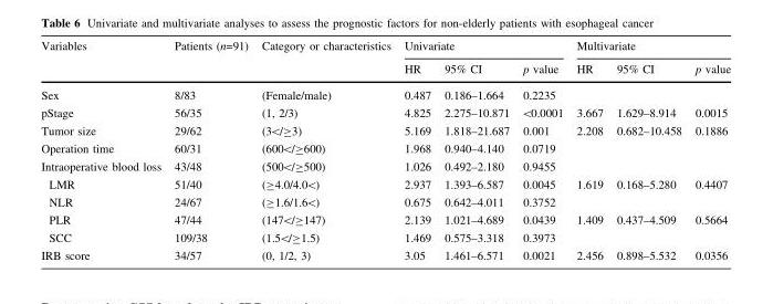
<table><thead><tr><td rowspan="2">Variables</td><td rowspan="2">Patients (n=91)</td><td rowspan="2">Category or characteristics</td><td colspan="3">Univariate</td><td colspan="3">Multivariate</td></tr><tr><td>HR</td><td>95% CI</td><td>p value</td><td>HR</td><td>95% CI</td><td>p value</td></tr></thead><tbody><tr><td>Sex</td><td>8/83</td><td>(Female/male)</td><td>0.487</td><td>0.186–1.664</td><td>0.2235</td><td></td><td></td><td></td></tr><tr><td>pStage</td><td>56/35</td><td>(1, 2/3)</td><td>4.825</td><td>2.275–10.871</td><td>&lt;0.0001</td><td>3.667</td><td>1.629–8.914</td><td>0.0015</td></tr><tr><td>Tumor size</td><td>29/62</td><td>(3&lt;/≥3)</td><td>5.169</td><td>1.818–21.687</td><td>0.001</td><td>2.208</td><td>0.682–10.458</td><td>0.1886</td></tr><tr><td>Operation time</td><td>60/31</td><td>(600&lt;/≥600)</td><td>1.968</td><td>0.940–4.140</td><td>0.0719</td><td></td><td></td><td></td></tr><tr><td>Intraoperative blood loss</td><td>43/48</td><td>(500&lt;/≥500)</td><td>1.026</td><td>0.492–2.180</td><td>0.9455</td><td></td><td></td><td></td></tr><tr><td>LMR</td><td>51/40</td><td>(≥4.0/4.0&lt;)</td><td>2.937</td><td>1.393–6.587</td><td>0.0045</td><td>1.619</td><td>0.168–5.280</td><td>0.4407</td></tr><tr><td>NLR</td><td>24/67</td><td>(≥1.6/1.6&lt;)</td><td>0.675</td><td>0.642–4.011</td><td>0.3752</td><td></td><td></td><td></td></tr><tr><td>PLR</td><td>47/44</td><td>(147&lt;/≥147)</td><td>2.139</td><td>1.021–4.689</td><td>0.0439</td><td>1.409</td><td>0.437–4.509</td><td>0.5664</td></tr><tr><td>SCC</td><td>109/38</td><td>(1.5&lt;/≥1.5)</td><td>1.469</td><td>0.575–3.318</td><td>0.3973</td><td></td><td></td><td></td></tr><tr><td>IRB score</td><td>34/57</td><td>(0, 1/2, 3)</td><td>3.05</td><td>1.461–6.571</td><td>0.0021</td><td>2.456</td><td>0.898–5.532</td><td>0.0356</td></tr></tbody></table>